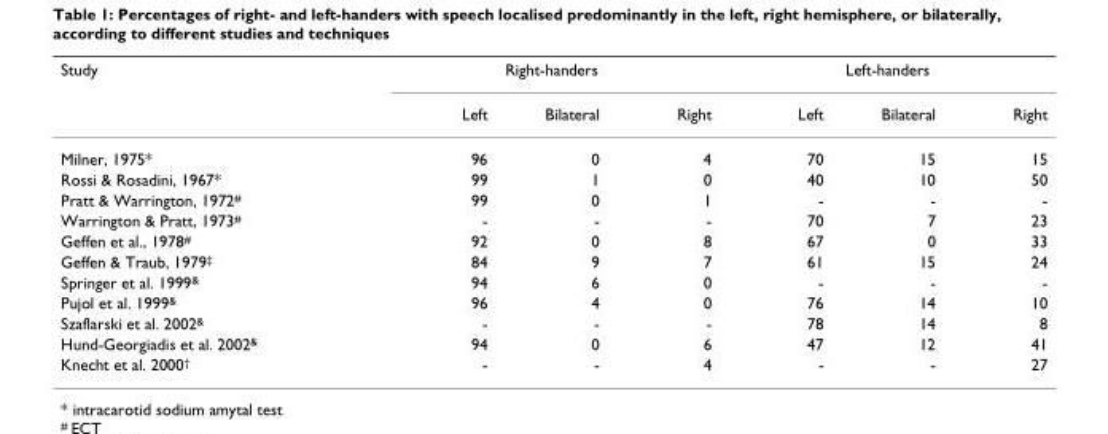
<table><thead><tr><td rowspan="2">Study</td><td colspan="3">Right-handers</td><td colspan="3">Left-handers</td></tr><tr><td>Left</td><td>Bilateral</td><td>Right</td><td>Left</td><td>Bilateral</td><td>Right</td></tr></thead><tbody><tr><td>Milner, 1975*</td><td>96</td><td>0</td><td>4</td><td>70</td><td>15</td><td>15</td></tr><tr><td>Rossi &amp; Rosadini, 1967*</td><td>99</td><td>1</td><td>0</td><td>40</td><td>10</td><td>50</td></tr><tr><td>Pratt &amp; Warrington, 1972<sup>#</sup></td><td>99</td><td>0</td><td>1</td><td>-</td><td>-</td><td>-</td></tr><tr><td>Warrington &amp; Pratt, 1973<sup>#</sup></td><td>-</td><td>-</td><td>-</td><td>70</td><td>7</td><td>23</td></tr><tr><td>Geffen et al., 1978<sup>#</sup></td><td>92</td><td>0</td><td>8</td><td>67</td><td>0</td><td>33</td></tr><tr><td>Geffen &amp; Traub, 1979<sup>‡</sup></td><td>84</td><td>9</td><td>7</td><td>61</td><td>15</td><td>24</td></tr><tr><td>Springer et al. 1999<sup>&amp;</sup></td><td>94</td><td>6</td><td>0</td><td>-</td><td>-</td><td>-</td></tr><tr><td>Pujol et al. 1999<sup>&amp;</sup></td><td>96</td><td>4</td><td>0</td><td>76</td><td>14</td><td>10</td></tr><tr><td>Szaflarski et al. 2002<sup>&amp;</sup></td><td>-</td><td>-</td><td>-</td><td>78</td><td>14</td><td>8</td></tr><tr><td>Hund-Georgiadis et al. 2002<sup>&amp;</sup></td><td>94</td><td>0</td><td>6</td><td>47</td><td>12</td><td>41</td></tr><tr><td>Knecht et al. 2000<sup>†</sup></td><td>-</td><td>-</td><td>4</td><td>-</td><td>-</td><td>27</td></tr></tbody></table>